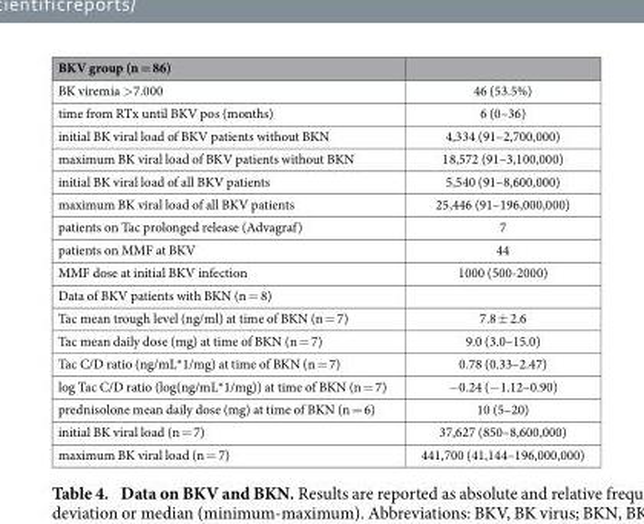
<table><thead><tr><td>BKV group (n = 86)</td><td></td></tr></thead><tbody><tr><td>BK viremia &gt; 7.000</td><td>46 (53.5%)</td></tr><tr><td>time from RTx until BKV pos (months)</td><td>6 (0–36)</td></tr><tr><td>initial BK viral load of BKV patients without BKN</td><td>4,334 (91–2,700,000)</td></tr><tr><td>maximum BK viral load of BKV patients without BKN</td><td>18,572 (91–3,100,000)</td></tr><tr><td>initial BK viral load of all BKV patients</td><td>5,540 (91–8,600,000)</td></tr><tr><td>maximum BK viral load of all BKV patients</td><td>25,446 (91–196,000,000)</td></tr><tr><td>patients on Tac prolonged release (Advagraf)</td><td>7</td></tr><tr><td>patients on MMF at BKV</td><td>44</td></tr><tr><td>MMF dose at initial BKV infection</td><td>1000 (500-2000)</td></tr><tr><td colspan="2">Data of BKV patients with BKN (n = 8)</td></tr><tr><td>Tac mean trough level (ng/ml) at time of BKN (n = 7)</td><td>7.8 ± 2.6</td></tr><tr><td>Tac mean daily dose (mg) at time of BKN (n = 7)</td><td>9.0 (3.0–15.0)</td></tr><tr><td>Tac C/D ratio (ng/mL*1/mg) at time of BKN (n = 7)</td><td>0.78 (0.33–2.47)</td></tr><tr><td>log Tac C/D ratio (log(ng/mL*1/mg)) at time of BKN (n = 7)</td><td>− 0.24 (− 1.12–0.90)</td></tr><tr><td>prednisolone mean daily dose (mg) at time of BKN (n = 6)</td><td>10 (5–20)</td></tr><tr><td>initial BK viral load (n = 7)</td><td>37,627 (850–8,600,000)</td></tr><tr><td>maximum BK viral load (n = 7)</td><td>441,700 (41,144–196,000,000)</td></tr></tbody></table>